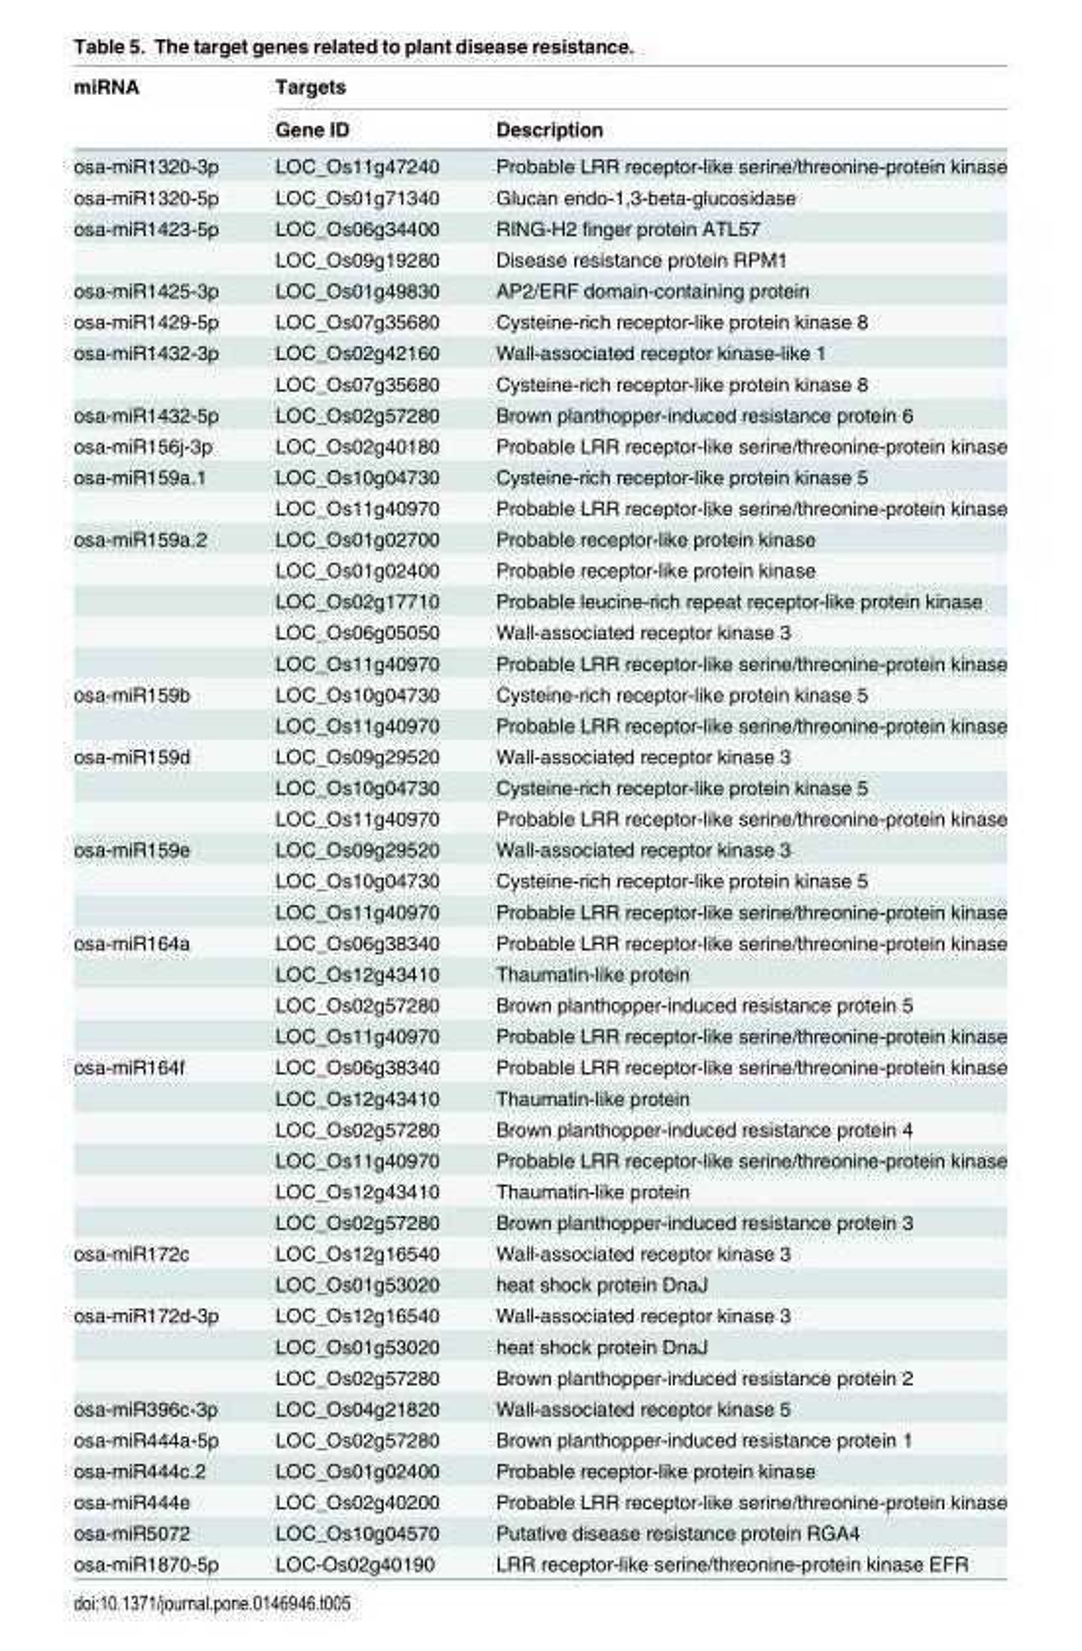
<table><thead><tr><td rowspan="2">miRNA</td><td colspan="2">Targets</td></tr><tr><td>Gene ID</td><td>Description</td></tr></thead><tbody><tr><td>osa-miR1320-3p</td><td>LOC_Os11g47240</td><td>Probable LRR receptor-like serine/threonine-protein kinase</td></tr><tr><td>osa-miR1320-5p</td><td>LOC_Os01g71340</td><td>Glucan endo-1,3-beta-glucosidase</td></tr><tr><td rowspan="2">osa-miR1423-5p</td><td>LOC_Os06g34400</td><td>RING-H2 finger protein ATL57</td></tr><tr><td>LOC_Os09g19280</td><td>Disease resistance protein RPM1</td></tr><tr><td>osa-miR1425-3p</td><td>LOC_Os01g49830</td><td>AP2/ERF domain-containing protein</td></tr><tr><td>osa-miR1429-5p</td><td>LOC_Os07g35680</td><td>Cysteine-rich receptor-like protein kinase 8</td></tr><tr><td rowspan="2">osa-miR1432-3p</td><td>LOC_Os02g42160</td><td>Wall-associated receptor kinase-like 1</td></tr><tr><td>LOC_Os07g35680</td><td>Cysteine-rich receptor-like protein kinase 8</td></tr><tr><td>osa-miR1432-5p</td><td>LOC_Os02g57280</td><td>Brown planthopper-induced resistance protein 6</td></tr><tr><td>osa-miR156j-3p</td><td>LOC_Os02g40180</td><td>Probable LRR receptor-like serine/threonine-protein kinase</td></tr><tr><td rowspan="2">osa-miR159a.1</td><td>LOC_Os10g04730</td><td>Cysteine-rich receptor-like protein kinase 5</td></tr><tr><td>LOC_Os11g40970</td><td>Probable LRR receptor-like serine/threonine-protein kinase</td></tr><tr><td rowspan="5">osa-miR159a.2</td><td>LOC_Os01g02700</td><td>Probable receptor-like protein kinase</td></tr><tr><td>LOC_Os01g02400</td><td>Probable receptor-like protein kinase</td></tr><tr><td>LOC_Os02g17710</td><td>Probable leucine-rich repeat receptor-like protein kinase</td></tr><tr><td>LOC_Os06g05050</td><td>Wall-associated receptor kinase 3</td></tr><tr><td>LOC_Os11g40970</td><td>Probable LRR receptor-like serine/threonine-protein kinase</td></tr><tr><td rowspan="2">osa-miR159b</td><td>LOC_Os10g04730</td><td>Cysteine-rich receptor-like protein kinase 5</td></tr><tr><td>LOC_Os11g40970</td><td>Probable LRR receptor-like serine/threonine-protein kinase</td></tr><tr><td rowspan="3">osa-miR159d</td><td>LOC_Os09g29520</td><td>Wall-associated receptor kinase 3</td></tr><tr><td>LOC_Os10g04730</td><td>Cysteine-rich receptor-like protein kinase 5</td></tr><tr><td>LOC_Os11g40970</td><td>Probable LRR receptor-like serine/threonine-protein kinase</td></tr><tr><td rowspan="3">osa-miR159e</td><td>LOC_Os09g29520</td><td>Wall-associated receptor kinase 3</td></tr><tr><td>LOC_Os10g04730</td><td>Cysteine-rich receptor-like protein kinase 5</td></tr><tr><td>LOC_Os11g40970</td><td>Probable LRR receptor-like serine/threonine-protein kinase</td></tr><tr><td rowspan="4">osa-miR164a</td><td>LOC_Os06g38340</td><td>Probable LRR receptor-like serine/threonine-protein kinase</td></tr><tr><td>LOC_Os12g43410</td><td>Thaumatin-like protein</td></tr><tr><td>LOC_Os02g57280</td><td>Brown planthopper-induced resistance protein 5</td></tr><tr><td>LOC_Os11g40970</td><td>Probable LRR receptor-like serine/threonine-protein kinase</td></tr><tr><td rowspan="6">osa-miR164f</td><td>LOC_Os06g38340</td><td>Probable LRR receptor-like serine/threonine-protein kinase</td></tr><tr><td>LOC_Os12g43410</td><td>Thaumatin-like protein</td></tr><tr><td>LOC_Os02g57280</td><td>Brown planthopper-induced resistance protein 4</td></tr><tr><td>LOC_Os11g40970</td><td>Probable LRR receptor-like serine/threonine-protein kinase</td></tr><tr><td>LOC_Os12g43410</td><td>Thaumatin-like protein</td></tr><tr><td>LOC_Os02g57280</td><td>Brown planthopper-induced resistance protein 3</td></tr><tr><td rowspan="2">osa-miR172c</td><td>LOC_Os12g16540</td><td>Wall-associated receptor kinase 3</td></tr><tr><td>LOC_Os01g53020</td><td>heat shock protein DnaJ</td></tr><tr><td rowspan="3">osa-miR172d-3p</td><td>LOC_Os12g16540</td><td>Wall-associated receptor kinase 3</td></tr><tr><td>LOC_Os01g53020</td><td>heat shock protein DnaJ</td></tr><tr><td>LOC_Os02g57280</td><td>Brown planthopper-induced resistance protein 2</td></tr><tr><td>osa-miR396c-3p</td><td>LOC_Os04g21820</td><td>Wall-associated receptor kinase 5</td></tr><tr><td>osa-miR444a-5p</td><td>LOC_Os02g57280</td><td>Brown planthopper-induced resistance protein 1</td></tr><tr><td>osa-miR444c.2</td><td>LOC_Os01g02400</td><td>Probable receptor-like protein kinase</td></tr><tr><td>osa-miR444e</td><td>LOC_Os02g40200</td><td>Probable LRR receptor-like serine/threonine-protein kinase</td></tr><tr><td>osa-miR5072</td><td>LOC_Os10g04570</td><td>Putative disease resistance protein RGA4</td></tr><tr><td>osa-miR1870-5p</td><td>LOC-Os02g40190</td><td>LRR receptor-like serine/threonine-protein kinase EFR</td></tr></tbody></table>